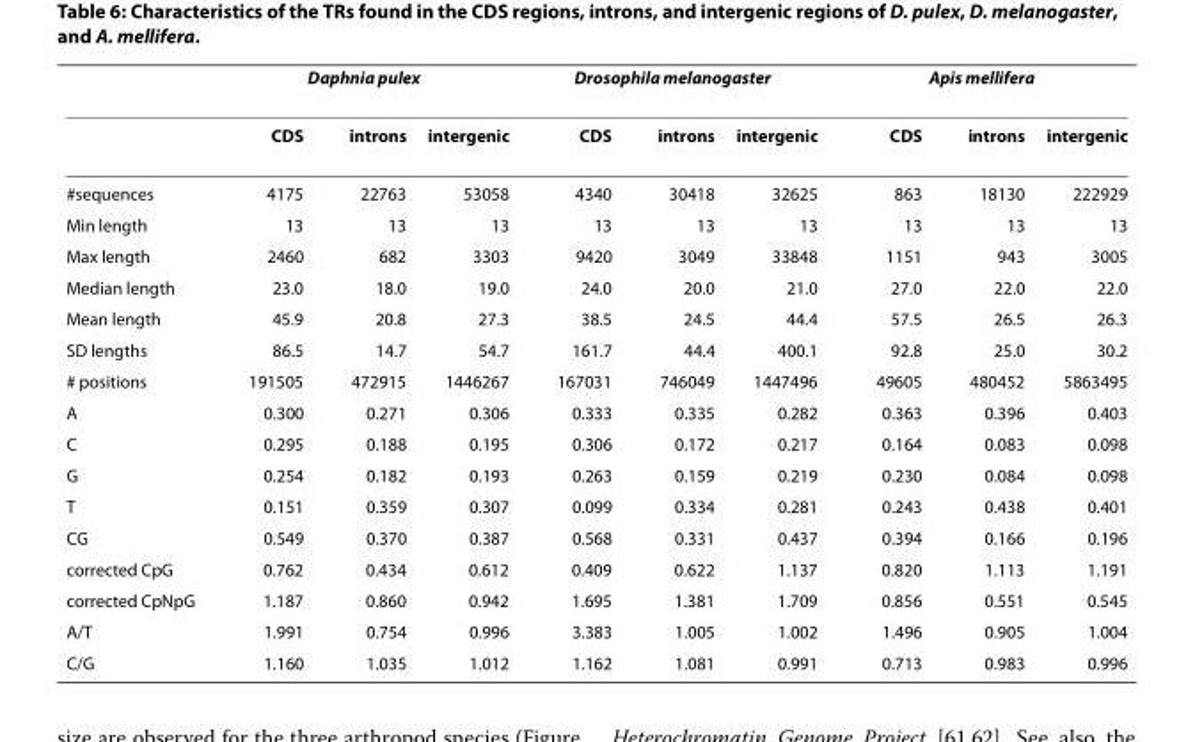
<table><thead><tr><td rowspan="2"></td><td colspan="3">Daphnia pulex</td><td colspan="3">Drosophila melanogaster</td><td colspan="3">Apis mellifera</td></tr><tr><td>CDS</td><td>introns</td><td>intergenic</td><td>CDS</td><td>introns</td><td>intergenic</td><td>CDS</td><td>introns</td><td>intergenic</td></tr></thead><tbody><tr><td>#sequences</td><td>4175</td><td>22763</td><td>53058</td><td>4340</td><td>30418</td><td>32625</td><td>863</td><td>18130</td><td>222929</td></tr><tr><td>Min length</td><td>13</td><td>13</td><td>13</td><td>13</td><td>13</td><td>13</td><td>13</td><td>13</td><td>13</td></tr><tr><td>Max length</td><td>2460</td><td>682</td><td>3303</td><td>9420</td><td>3049</td><td>33848</td><td>1151</td><td>943</td><td>3005</td></tr><tr><td>Median length</td><td>23.0</td><td>18.0</td><td>19.0</td><td>24.0</td><td>20.0</td><td>21.0</td><td>27.0</td><td>22.0</td><td>22.0</td></tr><tr><td>Mean length</td><td>45.9</td><td>20.8</td><td>27.3</td><td>38.5</td><td>24.5</td><td>44.4</td><td>57.5</td><td>26.5</td><td>26.3</td></tr><tr><td>SD lengths</td><td>86.5</td><td>14.7</td><td>54.7</td><td>161.7</td><td>44.4</td><td>400.1</td><td>92.8</td><td>25.0</td><td>30.2</td></tr><tr><td># positions</td><td>191505</td><td>472915</td><td>1446267</td><td>167031</td><td>746049</td><td>1447496</td><td>49605</td><td>480452</td><td>5863495</td></tr><tr><td>A</td><td>0.300</td><td>0.271</td><td>0.306</td><td>0.333</td><td>0.335</td><td>0.282</td><td>0.363</td><td>0.396</td><td>0.403</td></tr><tr><td>C</td><td>0.295</td><td>0.188</td><td>0.195</td><td>0.306</td><td>0.172</td><td>0.217</td><td>0.164</td><td>0.083</td><td>0.098</td></tr><tr><td>G</td><td>0.254</td><td>0.182</td><td>0.193</td><td>0.263</td><td>0.159</td><td>0.219</td><td>0.230</td><td>0.084</td><td>0.098</td></tr><tr><td>T</td><td>0.151</td><td>0.359</td><td>0.307</td><td>0.099</td><td>0.334</td><td>0.281</td><td>0.243</td><td>0.438</td><td>0.401</td></tr><tr><td>CG</td><td>0.549</td><td>0.370</td><td>0.387</td><td>0.568</td><td>0.331</td><td>0.437</td><td>0.394</td><td>0.166</td><td>0.196</td></tr><tr><td>corrected CpG</td><td>0.762</td><td>0.434</td><td>0.612</td><td>0.409</td><td>0.622</td><td>1.137</td><td>0.820</td><td>1.113</td><td>1.191</td></tr><tr><td>corrected CpNpG</td><td>1.187</td><td>0.860</td><td>0.942</td><td>1.695</td><td>1.381</td><td>1.709</td><td>0.856</td><td>0.551</td><td>0.545</td></tr><tr><td>A/T</td><td>1.991</td><td>0.754</td><td>0.996</td><td>3.383</td><td>1.005</td><td>1.002</td><td>1.496</td><td>0.905</td><td>1.004</td></tr><tr><td>C/G</td><td>1.160</td><td>1.035</td><td>1.012</td><td>1.162</td><td>1.081</td><td>0.991</td><td>0.713</td><td>0.983</td><td>0.996</td></tr></tbody></table>